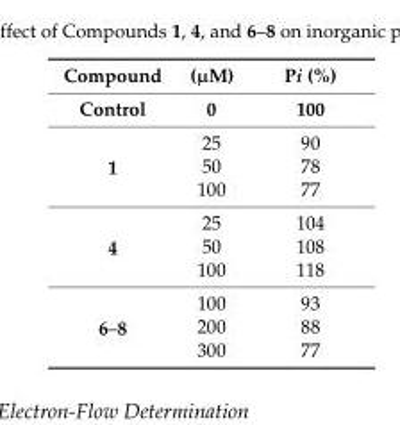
<table><thead><tr><td rowspan="2">Compound Control</td><td rowspan="2">(µM) 0</td><td rowspan="2">Pi (%) 100</td></tr><tr></tr></thead><tbody><tr><td rowspan="3">1</td><td>25</td><td>90</td></tr><tr><td>50</td><td>78</td></tr><tr><td>100</td><td>77</td></tr><tr><td rowspan="3">4</td><td>25</td><td>104</td></tr><tr><td>50</td><td>108</td></tr><tr><td>100</td><td>118</td></tr><tr><td rowspan="3">6–8</td><td>100</td><td>93</td></tr><tr><td>200</td><td>88</td></tr><tr><td>300</td><td>77</td></tr></tbody></table>